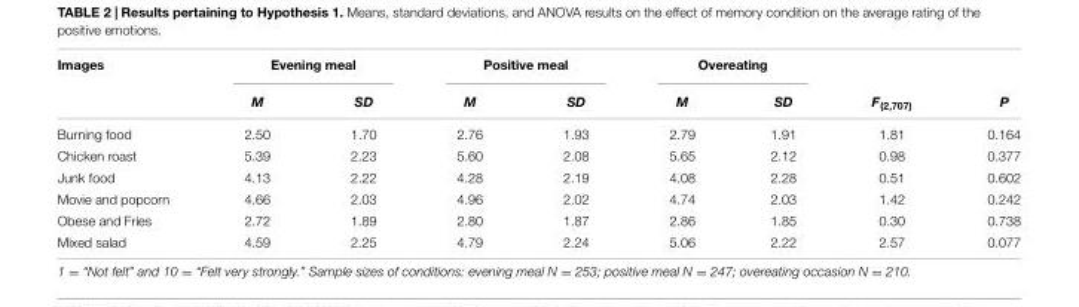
<table><thead><tr><td rowspan="2">Images</td><td colspan="2">Evening meal</td><td colspan="2">Positive meal</td><td colspan="2">Overeating</td><td rowspan="2">F<sub>(2,707)</sub></td><td rowspan="2">P</td></tr><tr><td>M</td><td>SD</td><td>M</td><td>SD</td><td>M</td><td>SD</td></tr></thead><tbody><tr><td>Burning food</td><td>2.50</td><td>1.70</td><td>2.76</td><td>1.93</td><td>2.79</td><td>1.91</td><td>1.81</td><td>0.164</td></tr><tr><td>Chicken roast</td><td>5.39</td><td>2.23</td><td>5.60</td><td>2.08</td><td>5.65</td><td>2.12</td><td>0.98</td><td>0.377</td></tr><tr><td>Junk food</td><td>4.13</td><td>2.22</td><td>4.28</td><td>2.19</td><td>4.08</td><td>2.28</td><td>0.51</td><td>0.602</td></tr><tr><td>Movie and popcorn</td><td>4.66</td><td>2.03</td><td>4.96</td><td>2.02</td><td>4.74</td><td>2.03</td><td>1.42</td><td>0.242</td></tr><tr><td>Obese and Fries</td><td>2.72</td><td>1.89</td><td>2.80</td><td>1.87</td><td>2.86</td><td>1.85</td><td>0.30</td><td>0.738</td></tr><tr><td>Mixed salad</td><td>4.59</td><td>2.25</td><td>4.79</td><td>2.24</td><td>5.06</td><td>2.22</td><td>2.57</td><td>0.077</td></tr></tbody></table>